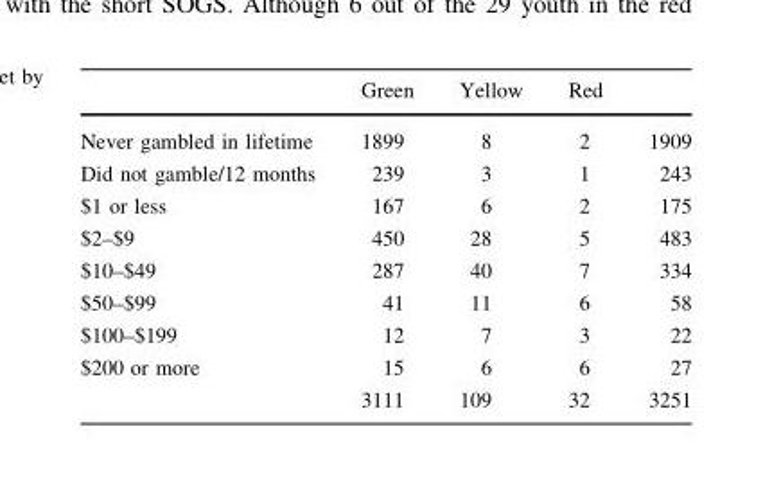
<table><thead><tr><td></td><td>Green</td><td>Yellow</td><td>Red</td><td></td></tr></thead><tbody><tr><td>Never gambled in lifetime</td><td>1899</td><td>8</td><td>2</td><td>1909</td></tr><tr><td>Did not gamble/12 months</td><td>239</td><td>3</td><td>1</td><td>243</td></tr><tr><td>$1 or less</td><td>167</td><td>6</td><td>2</td><td>175</td></tr><tr><td>$2–$9</td><td>450</td><td>28</td><td>5</td><td>483</td></tr><tr><td>$10–$49</td><td>287</td><td>40</td><td>7</td><td>334</td></tr><tr><td>$50–$99</td><td>41</td><td>11</td><td>6</td><td>58</td></tr><tr><td>$100–$199</td><td>12</td><td>7</td><td>3</td><td>22</td></tr><tr><td rowspan="2">$200 or more</td><td>15</td><td>6</td><td>6</td><td>27</td></tr><tr><td>3111</td><td>109</td><td>32</td><td>3251</td></tr></tbody></table>